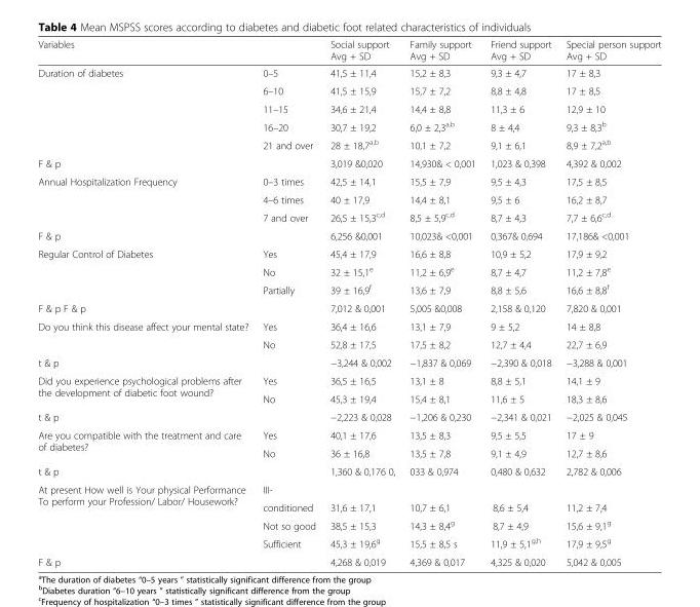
<table><thead><tr><td>Variables</td><td></td><td>Social support Avg + SD</td><td>Family support Avg + SD</td><td>Friend support Avg + SD</td><td>Special person support Avg + SD</td></tr></thead><tbody><tr><td rowspan="5">Duration of diabetes</td><td>0–5</td><td>41,5 ± 11,4</td><td>15,2 ± 8,3</td><td>9,3 ± 4,7</td><td>17 ± 8,3</td></tr><tr><td>6–10</td><td>41,5 ± 15,9</td><td>15,7 ± 7,2</td><td>8,8 ± 4,8</td><td>17 ± 8,5</td></tr><tr><td>11–15</td><td>34,6 ± 21,4</td><td>14,4 ± 8,8</td><td>11,3 ± 6</td><td>12,9 ± 10</td></tr><tr><td>16–20</td><td>30,7 ± 19,2</td><td>6,0 ± 2,3<sup>a,b</sup></td><td>8 ± 4,4</td><td>9,3 ± 8,3<sup>b</sup></td></tr><tr><td>21 and over</td><td>28 ± 18,7<sup>a,b</sup></td><td>10,1 ± 7,2</td><td>9,1 ± 6,1</td><td>8,9 ± 7,2<sup>a,b</sup></td></tr><tr><td colspan="2">F &amp; p</td><td>3,019 &amp;0,020</td><td>14,930&amp; &lt; 0,001</td><td>1,023 &amp; 0,398</td><td>4,392 &amp; 0,002</td></tr><tr><td rowspan="3">Annual Hospitalization Frequency</td><td>0–3 times</td><td>42,5 ± 14,1</td><td>15,5 ± 7,9</td><td>9,5 ± 4,3</td><td>17,5 ± 8,5</td></tr><tr><td>4–6 times</td><td>40 ± 17,9</td><td>14,4 ± 8,1</td><td>9,5 ± 6</td><td>16,2 ± 8,7</td></tr><tr><td>7 and over</td><td>26,5 ± 15,3<sup>c,d</sup></td><td>8,5 ± 5,9<sup>c,d</sup></td><td>8,7 ± 4,3</td><td>7,7 ± 6,6<sup>c,d</sup></td></tr><tr><td colspan="2">F &amp; p</td><td>6,256 &amp;0,001</td><td>10,023&amp; &lt;0,001</td><td>0,367&amp; 0,694</td><td>17,186&amp; &lt;0,001</td></tr><tr><td rowspan="3">Regular Control of Diabetes</td><td>Yes</td><td>45,4 ± 17,9</td><td>16,6 ± 8,8</td><td>10,9 ± 5,2</td><td>17,9 ± 9,2</td></tr><tr><td>No</td><td>32 ± 15,1<sup>e</sup></td><td>11,2 ± 6,9<sup>e</sup></td><td>8,7 ± 4,7</td><td>11,2 ± 7,8<sup>e</sup></td></tr><tr><td>Partially</td><td>39 ± 16,9<sup>f</sup></td><td>13,6 ± 7,9</td><td>8,8 ± 5,6</td><td>16,6 ± 8,8<sup>f</sup></td></tr><tr><td colspan="2">F &amp; p F &amp; p</td><td>7,012 &amp; 0,001</td><td>5,005 &amp;0,008</td><td>2,158 &amp; 0,120</td><td>7,820 &amp; 0,001</td></tr><tr><td rowspan="2">Do you think this disease affect your mental state?</td><td>Yes</td><td>36,4 ± 16,6</td><td>13,1 ± 7,9</td><td>9 ± 5,2</td><td>14 ± 8,8</td></tr><tr><td>No</td><td>52,8 ± 17,5</td><td>17,5 ± 8,2</td><td>12,7 ± 4,4</td><td>22,7 ± 6,9</td></tr><tr><td colspan="2">t &amp; p</td><td>−3,244 &amp; 0,002</td><td>−1,837 &amp; 0,069</td><td>−2,390 &amp; 0,018</td><td>−3,288 &amp; 0,001</td></tr><tr><td rowspan="2">Did you experience psychological problems after the development of diabetic foot wound?</td><td>Yes</td><td>36,5 ± 16,5</td><td>13,1 ± 8</td><td>8,8 ± 5,1</td><td>14,1 ± 9</td></tr><tr><td>No</td><td>45,3 ± 19,4</td><td>15,4 ± 8,1</td><td>11,6 ± 5</td><td>18,3 ± 8,6</td></tr><tr><td colspan="2">t &amp; p</td><td>−2,223 &amp; 0,028</td><td>−1,206 &amp; 0,230</td><td>−2,341 &amp; 0,021</td><td>−2,025 &amp; 0,045</td></tr><tr><td rowspan="2">Are you compatible with the treatment and care of diabetes?</td><td>Yes</td><td>40,1 ± 17,6</td><td>13,5 ± 8,3</td><td>9,5 ± 5,5</td><td>17 ± 9</td></tr><tr><td>No</td><td>36 ± 16,8</td><td>13,5 ± 7,8</td><td>9,1 ± 4,9</td><td>12,7 ± 8,6</td></tr><tr><td colspan="2">t &amp; p</td><td>1,360 &amp; 0,176 0,</td><td>033 &amp; 0,974</td><td>0,480 &amp; 0,632</td><td>2,782 &amp; 0,006</td></tr><tr><td rowspan="4">At present How well is Your physical Performance To perform your Profession/ Labor/ Housework?</td><td>III-</td><td></td><td></td><td></td><td></td></tr><tr><td>conditioned</td><td>31,6 ± 17,1</td><td>10,7 ± 6,1</td><td>8,6 ± 5,4</td><td>11,2 ± 7,4</td></tr><tr><td>Not so good</td><td>38,5 ± 15,3</td><td>14,3 ± 8,4<sup>g</sup></td><td>8,7 ± 4,9</td><td>15,6 ± 9,1<sup>g</sup></td></tr><tr><td>Sufficient</td><td>45,3 ± 19,6<sup>g</sup></td><td>15,5 ± 8,5 s</td><td>11,9 ± 5,1<sup>g,h</sup></td><td>17,9 ± 9,5<sup>g</sup></td></tr><tr><td colspan="2">F &amp; p</td><td>4,268 &amp; 0,019</td><td>4,369 &amp; 0,017</td><td>4,325 &amp; 0,020</td><td>5,042 &amp; 0,005</td></tr></tbody></table>